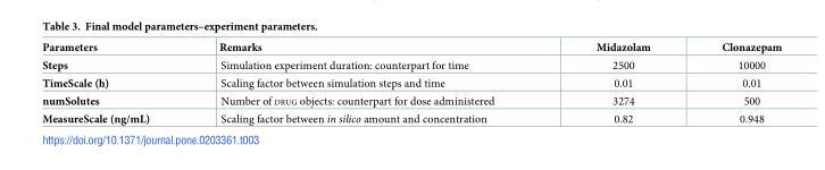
<table><thead><tr><td>Parameters</td><td>Remarks</td><td>Midazolam</td><td>Clonazepam</td></tr></thead><tbody><tr><td>Steps</td><td>Simulation experiment duration: counterpart for time</td><td>2500</td><td>10000</td></tr><tr><td>TimeScale (h)</td><td>Scaling factor between simulation steps and time</td><td>0.01</td><td>0.01</td></tr><tr><td>numSolutes</td><td>Number of DRUG objects: counterpart for dose administered</td><td>3274</td><td>500</td></tr><tr><td>MeasureScale (ng/mL)</td><td>Scaling factor between in silico amount and concentration</td><td>0.82</td><td>0.948</td></tr></tbody></table>